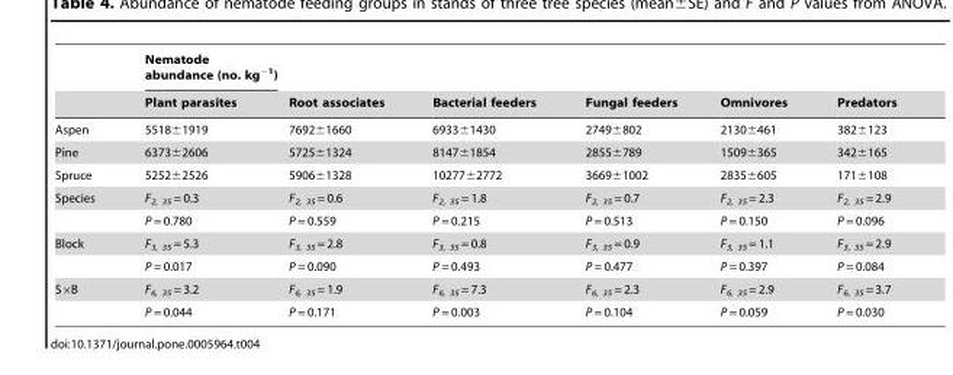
<table><thead><tr><td rowspan="2"></td><td rowspan="2">Nematode abundance (no. kg<sup>−1</sup>) Plant parasites</td><td rowspan="2">Root associates</td><td rowspan="2">Bacterial feeders</td><td rowspan="2">Fungal feeders</td><td rowspan="2">Omnivores</td><td rowspan="2">Predators</td></tr><tr></tr></thead><tbody><tr><td>Aspen</td><td>5518±1919</td><td>7692±1660</td><td>6933±1430</td><td>2749±802</td><td>2130±461</td><td>382±123</td></tr><tr><td>Pine</td><td>6373±2606</td><td>5725±1324</td><td>8147±1854</td><td>2855±789</td><td>1509±365</td><td>342±165</td></tr><tr><td>Spruce</td><td>5252±2526</td><td>5906±1328</td><td>10277±2772</td><td>3669±1002</td><td>2835±605</td><td>171±108</td></tr><tr><td rowspan="2">Species</td><td>F<sub>2, 35</sub> = 0.3</td><td>F<sub>2, 35</sub> = 0.6</td><td>F<sub>2, 35</sub> = 1.8</td><td>F<sub>2, 35</sub> = 0.7</td><td>F<sub>2, 35</sub> = 2.3</td><td>F<sub>2, 35</sub> = 2.9</td></tr><tr><td>P = 0.780</td><td>P = 0.559</td><td>P = 0.215</td><td>P = 0.513</td><td>P = 0.150</td><td>P = 0.096</td></tr><tr><td rowspan="2">Block</td><td>F<sub>3, 35</sub> = 5.3</td><td>F<sub>3, 35</sub> = 2.8</td><td>F<sub>3, 35</sub> = 0.8</td><td>F<sub>3, 35</sub> = 0.9</td><td>F<sub>3, 35</sub> = 1.1</td><td>F<sub>3, 35</sub> = 2.9</td></tr><tr><td>P = 0.017</td><td>P = 0.090</td><td>P = 0.493</td><td>P = 0.477</td><td>P = 0.397</td><td>P = 0.084</td></tr><tr><td rowspan="2">S×B</td><td>F<sub>6, 35</sub> = 3.2</td><td>F<sub>6, 35</sub> = 1.9</td><td>F<sub>6, 35</sub> = 7.3</td><td>F<sub>6, 35</sub> = 2.3</td><td>F<sub>6, 35</sub> = 2.9</td><td>F<sub>6, 35</sub> = 3.7</td></tr><tr><td>P = 0.044</td><td>P = 0.171</td><td>P = 0.003</td><td>P = 0.104</td><td>P = 0.059</td><td>P = 0.030</td></tr></tbody></table>